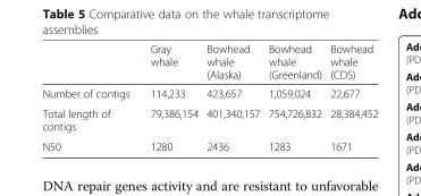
<table><thead><tr><td></td><td>Gray whale</td><td>Bowhead whale (Alaska)</td><td>Bowhead whale (Greenland)</td><td>Bowhead whale (CDS)</td></tr></thead><tbody><tr><td>Number of contigs</td><td>114,233</td><td>423,657</td><td>1,059,024</td><td>22,677</td></tr><tr><td>Total length of contigs</td><td>79,386,154</td><td>401,340,157</td><td>754,726,832</td><td>28,384,452</td></tr><tr><td>N50</td><td>1280</td><td>2436</td><td>1283</td><td>1671</td></tr></tbody></table>